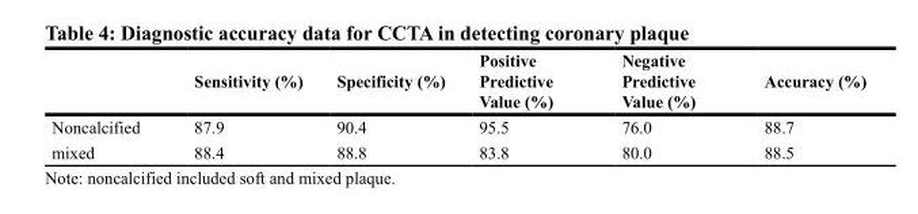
<table><thead><tr><td></td><td>Sensitivity (%)</td><td>Specificity (%)</td><td>Positive Predictive Value (%)</td><td>Negative Predictive Value (%)</td><td>Accuracy (%)</td></tr></thead><tbody><tr><td>Noncalcified</td><td>87.9</td><td>90.4</td><td>95.5</td><td>76.0</td><td>88.7</td></tr><tr><td>mixed</td><td>88.4</td><td>88.8</td><td>83.8</td><td>80.0</td><td>88.5</td></tr></tbody></table>